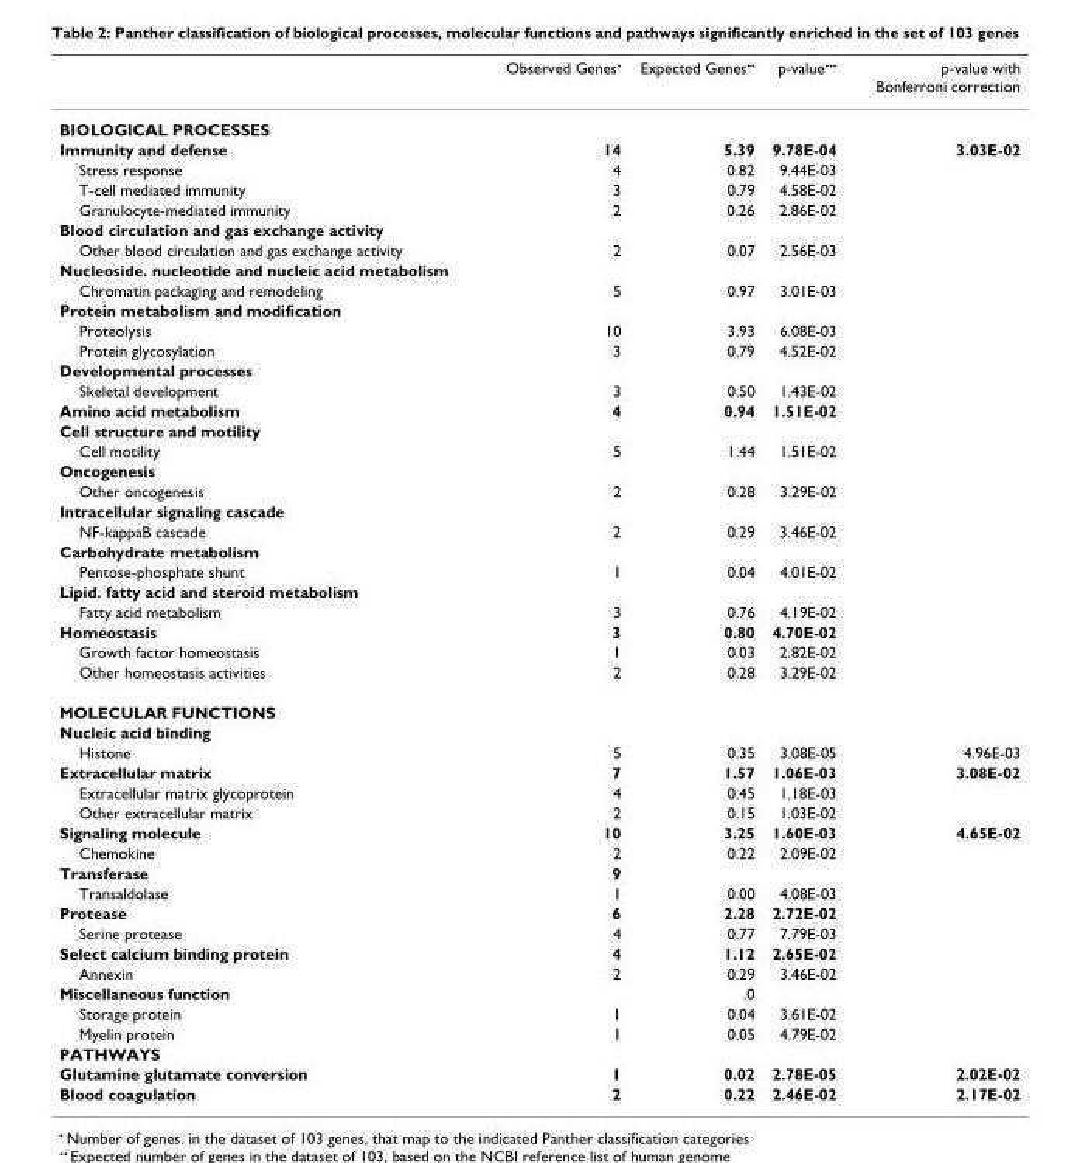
<table><thead><tr><td></td><td>Observed Genes<sup>•</sup></td><td>Expected Genes<sup>••</sup></td><td>p-value<sup>•••</sup></td><td>p-value with Bonferroni correction</td></tr></thead><tbody><tr><td colspan="5">BIOLOGICAL PROCESSES</td></tr><tr><td>Immunity and defense</td><td>14</td><td>5.39</td><td>9.78E-04</td><td>3.03E-02</td></tr><tr><td>Stress response</td><td>4</td><td>0.82</td><td>9.44E-03</td><td></td></tr><tr><td>T-cell mediated immunity</td><td>3</td><td>0.79</td><td>4.58E-02</td><td></td></tr><tr><td>Granulocyte-mediated immunity</td><td>2</td><td>0.26</td><td>2.86E-02</td><td></td></tr><tr><td colspan="5">Blood circulation and gas exchange activity</td></tr><tr><td>Other blood circulation and gas exchange activity</td><td>2</td><td>0.07</td><td>2.56E-03</td><td></td></tr><tr><td colspan="5">Nucleoside. nucleotide and nucleic acid metabolism</td></tr><tr><td>Chromatin packaging and remodeling</td><td>5</td><td>0.97</td><td>3.01E-03</td><td></td></tr><tr><td colspan="5">Protein metabolism and modification</td></tr><tr><td>Proteolysis</td><td>10</td><td>3.93</td><td>6.08E-03</td><td></td></tr><tr><td>Protein glycosylation</td><td>3</td><td>0.79</td><td>4.52E-02</td><td></td></tr><tr><td colspan="5">Developmental processes</td></tr><tr><td>Skeletal development</td><td>3</td><td>0.50</td><td>1.43E-02</td><td></td></tr><tr><td>Amino acid metabolism</td><td>4</td><td>0.94</td><td>1.51E-02</td><td></td></tr><tr><td colspan="5">Cell structure and motility</td></tr><tr><td>Cell motility</td><td>5</td><td>1.44</td><td>1.51E-02</td><td></td></tr><tr><td colspan="5">Oncogenesis</td></tr><tr><td>Other oncogenesis</td><td>2</td><td>0.28</td><td>3.29E-02</td><td></td></tr><tr><td colspan="5">Intracellular signaling cascade</td></tr><tr><td>NF-kappaB cascade</td><td>2</td><td>0.29</td><td>3.46E-02</td><td></td></tr><tr><td colspan="5">Carbohydrate metabolism</td></tr><tr><td>Pentose-phosphate shunt</td><td>1</td><td>0.04</td><td>4.01E-02</td><td></td></tr><tr><td colspan="5">Lipid. fatty acid and steroid metabolism</td></tr><tr><td>Fatty acid metabolism</td><td>3</td><td>0.76</td><td>4.19E-02</td><td></td></tr><tr><td>Homeostasis</td><td>3</td><td>0.80</td><td>4.70E-02</td><td></td></tr><tr><td>Growth factor homeostasis</td><td>1</td><td>0.03</td><td>2.82E-02</td><td></td></tr><tr><td>Other homeostasis activities</td><td>2</td><td>0.28</td><td>3.29E-02</td><td></td></tr><tr><td colspan="5">MOLECULAR FUNCTIONS</td></tr><tr><td colspan="5">Nucleic acid binding</td></tr><tr><td>Histone</td><td>5</td><td>0.35</td><td>3.08E-05</td><td>4.96E-03</td></tr><tr><td>Extracellular matrix</td><td>7</td><td>1.57</td><td>1.06E-03</td><td>3.08E-02</td></tr><tr><td>Extracellular matrix glycoprotein</td><td>4</td><td>0.45</td><td>1.18E-03</td><td></td></tr><tr><td>Other extracellular matrix</td><td>2</td><td>0.15</td><td>1.03E-02</td><td></td></tr><tr><td>Signaling molecule</td><td>10</td><td>3.25</td><td>1.60E-03</td><td>4.65E-02</td></tr><tr><td>Chemokine</td><td>2</td><td>0.22</td><td>2.09E-02</td><td></td></tr><tr><td>Transferase</td><td>9</td><td></td><td></td><td></td></tr><tr><td>Transaldolase</td><td>1</td><td>0.00</td><td>4.08E-03</td><td></td></tr><tr><td>Protease</td><td>6</td><td>2.28</td><td>2.72E-02</td><td></td></tr><tr><td>Serine protease</td><td>4</td><td>0.77</td><td>7.79E-03</td><td></td></tr><tr><td>Select calcium binding protein</td><td>4</td><td>1.12</td><td>2.65E-02</td><td></td></tr><tr><td>Annexin</td><td>2</td><td>0.29</td><td>3.46E-02</td><td></td></tr><tr><td>Miscellaneous function</td><td></td><td>.0</td><td></td><td></td></tr><tr><td>Storage protein</td><td>1</td><td>0.04</td><td>3.61E-02</td><td></td></tr><tr><td>Myelin protein</td><td>1</td><td>0.05</td><td>4.79E-02</td><td></td></tr><tr><td colspan="5">PATHWAYS</td></tr><tr><td>Glutamine glutamate conversion</td><td>1</td><td>0.02</td><td>2.78E-05</td><td>2.02E-02</td></tr><tr><td>Blood coagulation</td><td>2</td><td>0.22</td><td>2.46E-02</td><td>2.17E-02</td></tr></tbody></table>